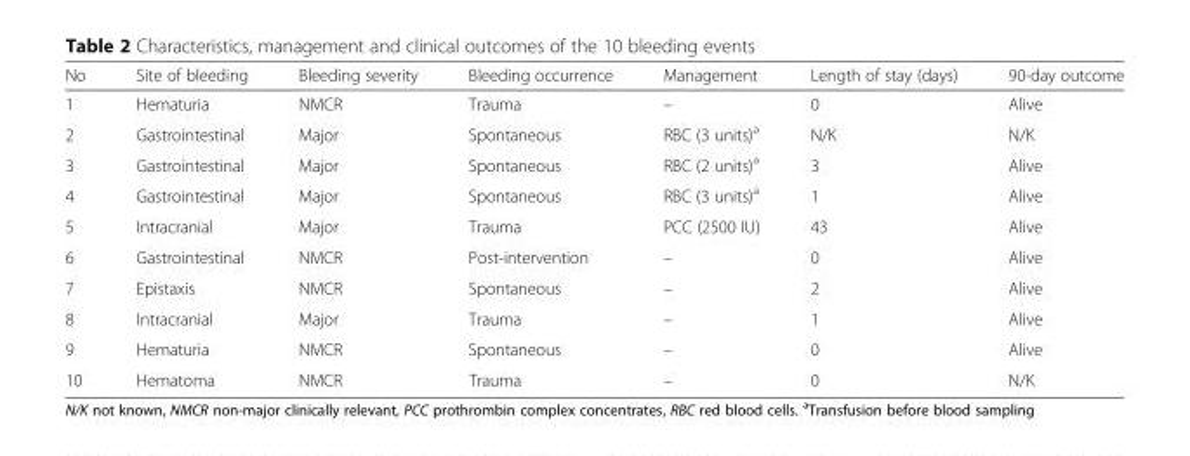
<table><thead><tr><td>No</td><td>Site of bleeding</td><td>Bleeding severity</td><td>Bleeding occurrence</td><td>Management</td><td>Length of stay (days)</td><td>90-day outcome</td></tr></thead><tbody><tr><td>1</td><td>Hematuria</td><td>NMCR</td><td>Trauma</td><td>–</td><td>0</td><td>Alive</td></tr><tr><td>2</td><td>Gastrointestinal</td><td>Major</td><td>Spontaneous</td><td>RBC (3 units)<sup>a</sup></td><td>N/K</td><td>N/K</td></tr><tr><td>3</td><td>Gastrointestinal</td><td>Major</td><td>Spontaneous</td><td>RBC (2 units)<sup>a</sup></td><td>3</td><td>Alive</td></tr><tr><td>4</td><td>Gastrointestinal</td><td>Major</td><td>Spontaneous</td><td>RBC (3 units)<sup>a</sup></td><td>1</td><td>Alive</td></tr><tr><td>5</td><td>Intracranial</td><td>Major</td><td>Trauma</td><td>PCC (2500 IU)</td><td>43</td><td>Alive</td></tr><tr><td>6</td><td>Gastrointestinal</td><td>NMCR</td><td>Post-intervention</td><td>–</td><td>0</td><td>Alive</td></tr><tr><td>7</td><td>Epistaxis</td><td>NMCR</td><td>Spontaneous</td><td>–</td><td>2</td><td>Alive</td></tr><tr><td>8</td><td>Intracranial</td><td>Major</td><td>Trauma</td><td>–</td><td>1</td><td>Alive</td></tr><tr><td>9</td><td>Hematuria</td><td>NMCR</td><td>Spontaneous</td><td>–</td><td>0</td><td>Alive</td></tr><tr><td>10</td><td>Hematoma</td><td>NMCR</td><td>Trauma</td><td>–</td><td>0</td><td>N/K</td></tr></tbody></table>